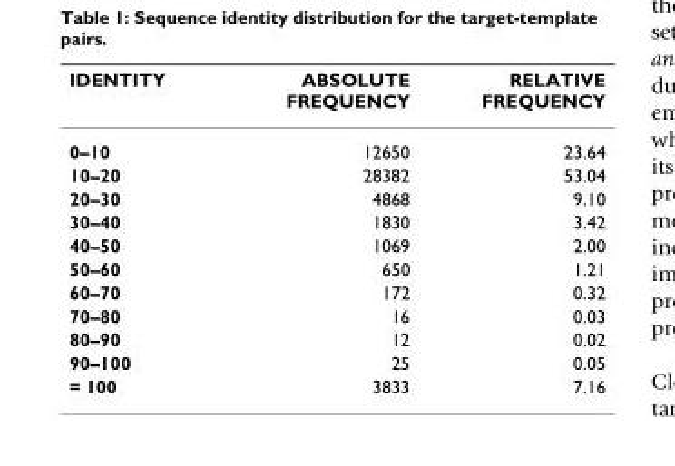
<table><thead><tr><td>IDENTITY</td><td>ABSOLUTE FREQUENCY</td><td>RELATIVE FREQUENCY</td></tr></thead><tbody><tr><td>0–10</td><td>12650</td><td>23.64</td></tr><tr><td>10–20</td><td>28382</td><td>53.04</td></tr><tr><td>20–30</td><td>4868</td><td>9.10</td></tr><tr><td>30–40</td><td>1830</td><td>3.42</td></tr><tr><td>40–50</td><td>1069</td><td>2.00</td></tr><tr><td>50–60</td><td>650</td><td>1.21</td></tr><tr><td>60–70</td><td>172</td><td>0.32</td></tr><tr><td>70–80</td><td>16</td><td>0.03</td></tr><tr><td>80–90</td><td>12</td><td>0.02</td></tr><tr><td>90–100</td><td>25</td><td>0.05</td></tr><tr><td>= 100</td><td>3833</td><td>7.16</td></tr></tbody></table>